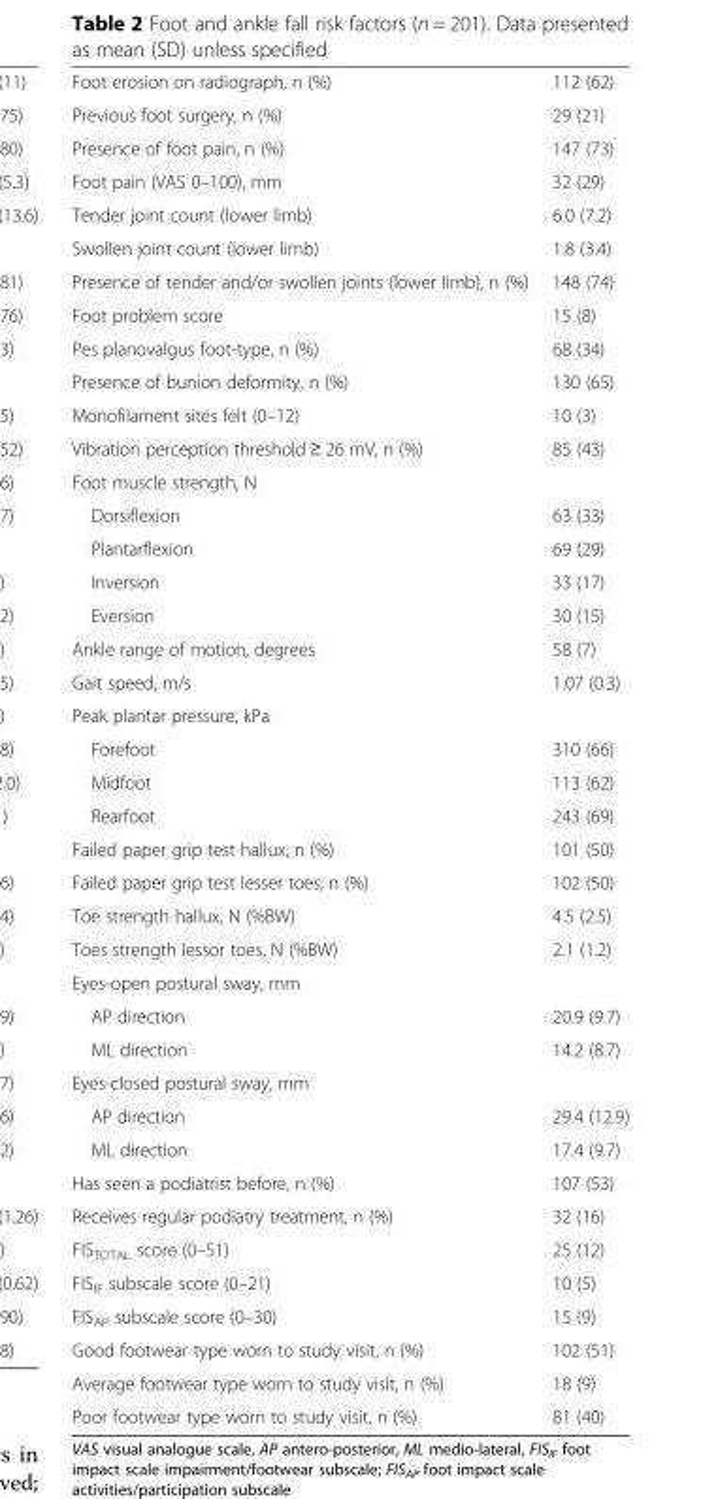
<table><tbody><tr><td>Foot erosion on radiograph, n (%)</td><td>112 (62)</td></tr><tr><td>Previous foot surgery, n (%)</td><td>29 (21)</td></tr><tr><td>Presence of foot pain, n (%)</td><td>147 (73)</td></tr><tr><td>Foot pain (VAS 0–100), mm</td><td>32 (29)</td></tr><tr><td>Tender joint count (lower limb)</td><td>6.0 (7.2)</td></tr><tr><td>Swollen joint count (lower limb)</td><td>1.8 (3.4)</td></tr><tr><td>Presence of tender and/or swollen joints (lower limb), n (%)</td><td>148 (74)</td></tr><tr><td>Foot problem score</td><td>15 (8)</td></tr><tr><td>Pes planovalgus foot-type, n (%)</td><td>68 (34)</td></tr><tr><td>Presence of bunion deformity, n (%)</td><td>130 (65)</td></tr><tr><td>Monofilament sites felt (0–12)</td><td>10 (3)</td></tr><tr><td>Vibration perception threshold ≥ 26 mV, n (%)</td><td>85 (43)</td></tr><tr><td colspan="2">Foot muscle strength, N</td></tr><tr><td>Dorsiflexion</td><td>63 (33)</td></tr><tr><td>Plantarflexion</td><td>69 (29)</td></tr><tr><td>Inversion</td><td>33 (17)</td></tr><tr><td>Eversion</td><td>30 (15)</td></tr><tr><td>Ankle range of motion, degrees</td><td>58 (7)</td></tr><tr><td>Gait speed, m/s</td><td>1.07 (0.3)</td></tr><tr><td colspan="2">Peak plantar pressure, kPa</td></tr><tr><td>Forefoot</td><td>310 (66)</td></tr><tr><td>Midfoot</td><td>113 (62)</td></tr><tr><td>Rearfoot</td><td>243 (69)</td></tr><tr><td>Failed paper grip test hallux, n (%)</td><td>101 (50)</td></tr><tr><td>Failed paper grip test lesser toes, n (%)</td><td>102 (50)</td></tr><tr><td>Toe strength hallux, N (%BW)</td><td>4.5 (2.5)</td></tr><tr><td>Toes strength lessor toes, N (%BW)</td><td>2.1 (1.2)</td></tr><tr><td colspan="2">Eyes-open postural sway, mm</td></tr><tr><td>AP direction</td><td>20.9 (9.7)</td></tr><tr><td>ML direction</td><td>14.2 (8.7)</td></tr><tr><td colspan="2">Eyes-closed postural sway, mm</td></tr><tr><td>AP direction</td><td>29.4 (12.9)</td></tr><tr><td>ML direction</td><td>17.4 (9.7)</td></tr><tr><td>Has seen a podiatrist before, n (%)</td><td>107 (53)</td></tr><tr><td>Receives regular podiatry treatment, n (%)</td><td>32 (16)</td></tr><tr><td>FIS<sub>TOTAL</sub> score (0–51)</td><td>25 (12)</td></tr><tr><td>FIS<sub>IF</sub> subscale score (0–21)</td><td>10 (5)</td></tr><tr><td>FIS<sub>AP</sub> subscale score (0–30)</td><td>15 (9)</td></tr><tr><td>Good footwear type worn to study visit, n (%)</td><td>102 (51)</td></tr><tr><td>Average footwear type worn to study visit, n (%)</td><td>18 (9)</td></tr><tr><td>Poor footwear type worn to study visit, n (%)</td><td>81 (40)</td></tr></tbody></table>